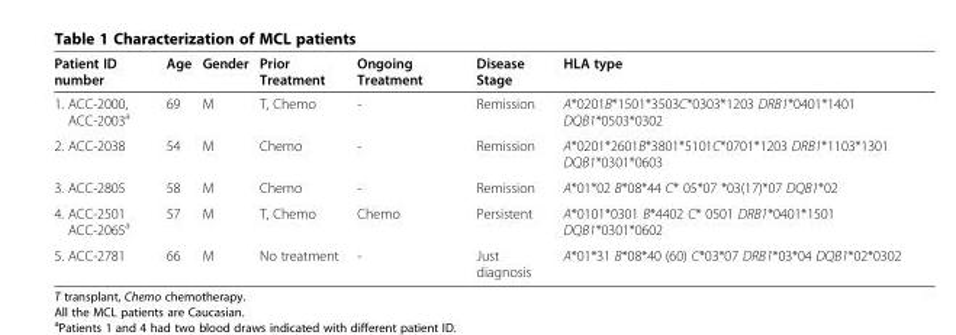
<table><thead><tr><td>Patient ID number</td><td>Age</td><td>Gender</td><td>Prior Treatment</td><td>Ongoing Treatment</td><td>Disease Stage</td><td>HLA type</td></tr></thead><tbody><tr><td>1. ACC-2000, ACC-2003<sup>a</sup></td><td>69</td><td>M</td><td>T, Chemo</td><td>-</td><td>Remission</td><td>A*0201B*1501*3503C*0303*1203 DRB1*0401*1401 DQB1*0503*0302</td></tr><tr><td>2. ACC-2038</td><td>54</td><td>M</td><td>Chemo</td><td>-</td><td>Remission</td><td>A*0201*2601B*3801*5101C*0701*1203 DRB1*1103*1301 DQB1*0301*0603</td></tr><tr><td>3. ACC-2805</td><td>58</td><td>M</td><td>Chemo</td><td>-</td><td>Remission</td><td>A*01*02 B*08*44 C* 05*07 *03(17)*07 DQB1*02</td></tr><tr><td>4. ACC-2501 ACC-2065<sup>a</sup></td><td>57</td><td>M</td><td>T, Chemo</td><td>Chemo</td><td>Persistent</td><td>A*0101*0301 B*4402 C* 0501 DRB1*0401*1501 DQB1*0301*0602</td></tr><tr><td>5. ACC-2781</td><td>66</td><td>M</td><td>No treatment</td><td>-</td><td>Just diagnosis</td><td>A*01*31 B*08*40 (60) C*03*07 DRB1*03*04 DQB1*02*0302</td></tr></tbody></table>